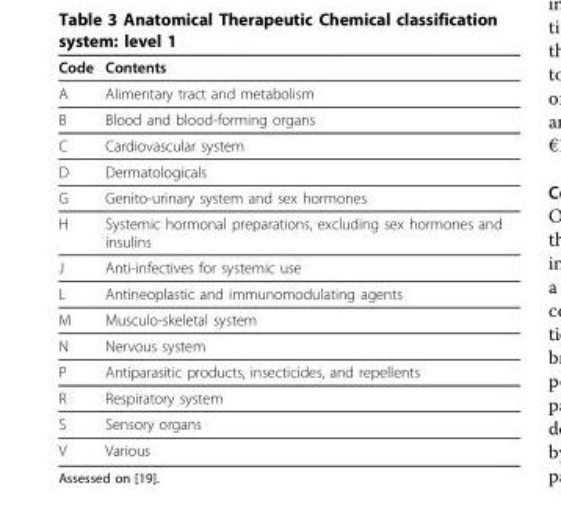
<table><thead><tr><td>Code</td><td>Contents</td></tr></thead><tbody><tr><td>A</td><td>Alimentary tract and metabolism</td></tr><tr><td>B</td><td>Blood and blood-forming organs</td></tr><tr><td>C</td><td>Cardiovascular system</td></tr><tr><td>D</td><td>Dermatologicals</td></tr><tr><td>G</td><td>Genito-urinary system and sex hormones</td></tr><tr><td>H</td><td>Systemic hormonal preparations, excluding sex hormones and insulins</td></tr><tr><td>J</td><td>Anti-infectives for systemic use</td></tr><tr><td>L</td><td>Antineoplastic and immunomodulating agents</td></tr><tr><td>M</td><td>Musculo-skeletal system</td></tr><tr><td>N</td><td>Nervous system</td></tr><tr><td>P</td><td>Antiparasitic products, insecticides, and repellents</td></tr><tr><td>R</td><td>Respiratory system</td></tr><tr><td>S</td><td>Sensory organs</td></tr><tr><td>V</td><td>Various</td></tr></tbody></table>